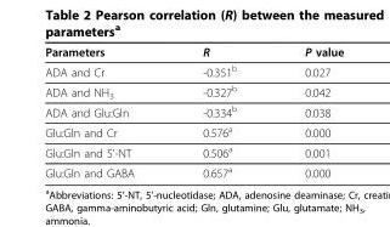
<table><thead><tr><td>Parameters</td><td>R</td><td>P value</td></tr></thead><tbody><tr><td>ADA and Cr</td><td>-0.351<sup>b</sup></td><td>0.027</td></tr><tr><td>ADA and NH<sub>3</sub></td><td>-0.327<sup>b</sup></td><td>0.042</td></tr><tr><td>ADA and Glu:Gln</td><td>-0.334<sup>b</sup></td><td>0.038</td></tr><tr><td>Glu:Gln and Cr</td><td>0.576<sup>a</sup></td><td>0.000</td></tr><tr><td>Glu:Gln and 5’-NT</td><td>0.506<sup>a</sup></td><td>0.001</td></tr><tr><td>Glu:Gln and GABA</td><td>0.657<sup>a</sup></td><td>0.000</td></tr></tbody></table>